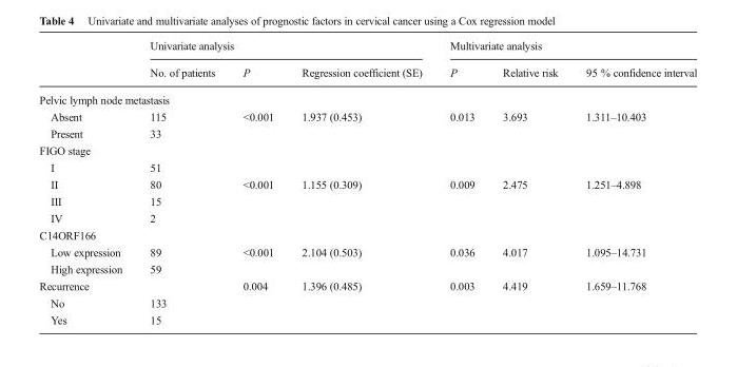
<table><thead><tr><td rowspan="2"></td><td colspan="3">Univariate analysis</td><td colspan="3">Multivariate analysis</td></tr><tr><td>No. of patients</td><td>P</td><td>Regression coefficient (SE)</td><td>P</td><td>Relative risk</td><td>95 % confidence interval</td></tr></thead><tbody><tr><td colspan="7">Pelvic lymph node metastasis</td></tr><tr><td>Absent</td><td>115</td><td>&lt;0.001</td><td>1.937 (0.453)</td><td>0.013</td><td>3.693</td><td>1.311–10.403</td></tr><tr><td>Present</td><td>33</td><td></td><td></td><td></td><td></td><td></td></tr><tr><td colspan="7">FIGO stage</td></tr><tr><td>I</td><td>51</td><td></td><td></td><td></td><td></td><td></td></tr><tr><td>II</td><td>80</td><td>&lt;0.001</td><td>1.155 (0.309)</td><td>0.009</td><td>2.475</td><td>1.251–4.898</td></tr><tr><td>III</td><td>15</td><td></td><td></td><td></td><td></td><td></td></tr><tr><td>IV</td><td>2</td><td></td><td></td><td></td><td></td><td></td></tr><tr><td colspan="7">C14ORF166</td></tr><tr><td>Low expression</td><td>89</td><td>&lt;0.001</td><td>2.104 (0.503)</td><td>0.036</td><td>4.017</td><td>1.095–14.731</td></tr><tr><td>High expression</td><td>59</td><td></td><td></td><td></td><td></td><td></td></tr><tr><td>Recurrence</td><td></td><td>0.004</td><td>1.396 (0.485)</td><td>0.003</td><td>4.419</td><td>1.659–11.768</td></tr><tr><td>No</td><td>133</td><td></td><td></td><td></td><td></td><td></td></tr><tr><td>Yes</td><td>15</td><td></td><td></td><td></td><td></td><td></td></tr></tbody></table>